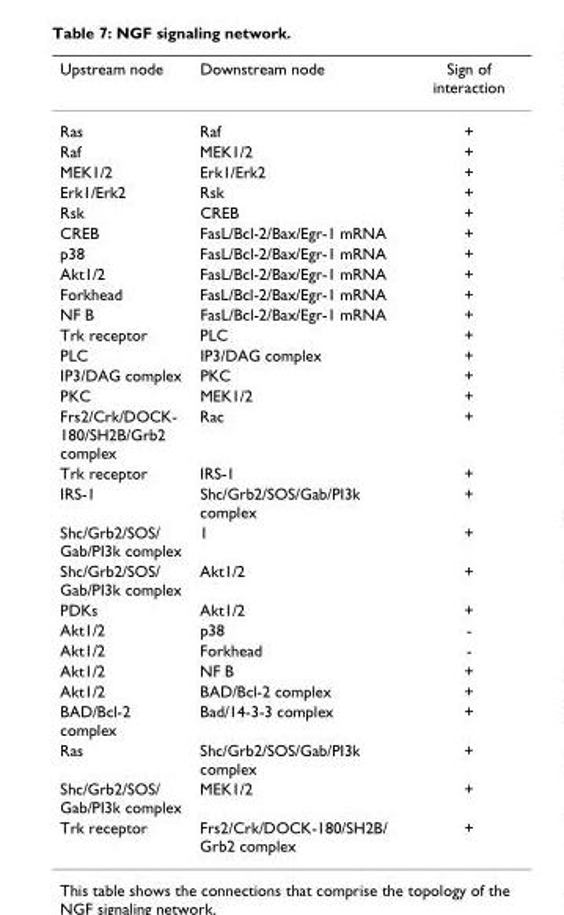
<table><thead><tr><td>Upstream node</td><td>Downstream node</td><td>Sign of interaction</td></tr></thead><tbody><tr><td>Ras</td><td>Raf</td><td>+</td></tr><tr><td>Raf</td><td>MEK1/2</td><td>+</td></tr><tr><td>MEK1/2</td><td>Erk1/Erk2</td><td>+</td></tr><tr><td>Erk1/Erk2</td><td>Rsk</td><td>+</td></tr><tr><td>Rsk</td><td>CREB</td><td>+</td></tr><tr><td>CREB</td><td>FasL/Bcl-2/Bax/Egr-1 mRNA</td><td>+</td></tr><tr><td>p38</td><td>FasL/Bcl-2/Bax/Egr-1 mRNA</td><td>+</td></tr><tr><td>Akt1/2</td><td>FasL/Bcl-2/Bax/Egr-1 mRNA</td><td>+</td></tr><tr><td>Forkhead</td><td>FasL/Bcl-2/Bax/Egr-1 mRNA</td><td>+</td></tr><tr><td>NF B</td><td>FasL/Bcl-2/Bax/Egr-1 mRNA</td><td>+</td></tr><tr><td>Trk receptor</td><td>PLC</td><td>+</td></tr><tr><td>PLC</td><td>IP3/DAG complex</td><td>+</td></tr><tr><td>IP3/DAG complex</td><td>PKC</td><td>+</td></tr><tr><td>PKC</td><td>MEK1/2</td><td>+</td></tr><tr><td>Frs2/Crk/DOCK- 180/SH2B/Grb2 complex</td><td>Rac</td><td>+</td></tr><tr><td>Trk receptor</td><td>IRS-1</td><td>+</td></tr><tr><td>IRS-1</td><td>Shc/Grb2/SOS/Gab/PI3k complex</td><td>+</td></tr><tr><td>Shc/Grb2/SOS/ Gab/PI3k complex</td><td>1</td><td>+</td></tr><tr><td>Shc/Grb2/SOS/ Gab/PI3k complex</td><td>Akt1/2</td><td>+</td></tr><tr><td>PDKs</td><td>Akt1/2</td><td>+</td></tr><tr><td>Akt1/2</td><td>p38</td><td>-</td></tr><tr><td>Akt1/2</td><td>Forkhead</td><td>-</td></tr><tr><td>Akt1/2</td><td>NF B</td><td>+</td></tr><tr><td>Akt1/2</td><td>BAD/Bcl-2 complex</td><td>+</td></tr><tr><td>BAD/Bcl-2 complex</td><td>Bad/14-3-3 complex</td><td>+</td></tr><tr><td>Ras</td><td>Shc/Grb2/SOS/Gab/PI3k complex</td><td>+</td></tr><tr><td>Shc/Grb2/SOS/ Gab/PI3k complex</td><td>MEK1/2</td><td>+</td></tr><tr><td>Trk receptor</td><td>Frs2/Crk/DOCK-180/SH2B/ Grb2 complex</td><td>+</td></tr></tbody></table>